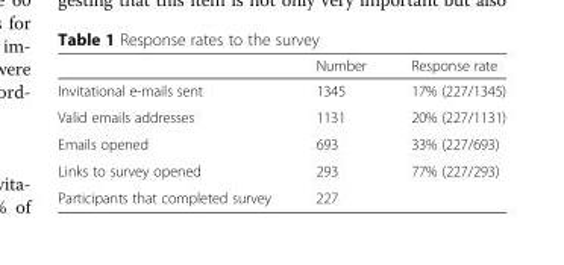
<table><thead><tr><td></td><td>Number</td><td>Response rate</td></tr></thead><tbody><tr><td>Invitational e-mails sent</td><td>1345</td><td>17% (227/1345)</td></tr><tr><td>Valid emails addresses</td><td>1131</td><td>20% (227/1131)</td></tr><tr><td>Emails opened</td><td>693</td><td>33% (227/693)</td></tr><tr><td>Links to survey opened</td><td>293</td><td>77% (227/293)</td></tr><tr><td>Participants that completed survey</td><td>227</td><td></td></tr></tbody></table>